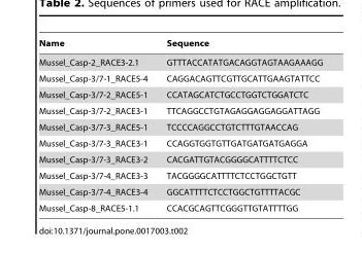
<table><thead><tr><td>Name</td><td>Sequence</td></tr></thead><tbody><tr><td>Mussel_Casp-2_RACE3-2.1</td><td>GTTTACCATATGACAGGTAGTAAGAAAGG</td></tr><tr><td>Mussel_Casp-3/7-1_RACE5-4</td><td>CAGGACAGTTCGTTGCATTGAAGTATTCC</td></tr><tr><td>Mussel_Casp-3/7-2_RACE5-1</td><td>CCATAGCATCTGCCTGGTCTGGATCTC</td></tr><tr><td>Mussel_Casp-3/7-2_RACE3-1</td><td>TTCAGGCCTGTAGAGGAGGAGGATTAGG</td></tr><tr><td>Mussel_Casp-3/7-3_RACE5-1</td><td>TCCCCAGGCCTGTCTTTGTAACCAG</td></tr><tr><td>Mussel_Casp-3/7-3_RACE3-1</td><td>CCAGGTGGTGTTGATGATGATGAGGA</td></tr><tr><td>Mussel_Casp-3/7-3_RACE3-2</td><td>CACGATTGTACGGGGCATTTTCTCC</td></tr><tr><td>Mussel_Casp-3/7-4_RACE3-3</td><td>TACGGGGCATTTTCTCCTGGCTGTT</td></tr><tr><td>Mussel_Casp-3/7-4_RACE3-4</td><td>GGCATTTTCTCCTGGCTGTTTTACGC</td></tr><tr><td>Mussel_Casp-8_RACE5-1.1</td><td>CCACGCAGTTCGGGTTGTATTTTGG</td></tr></tbody></table>